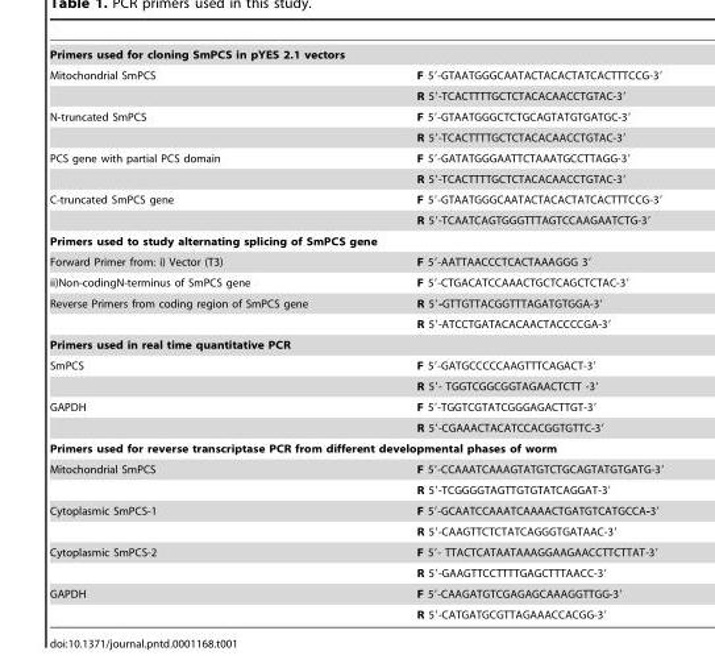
<table><tbody><tr><td colspan="2">Primers used for cloning SmPCS in pYES 2.1 vectors</td></tr><tr><td rowspan="2">Mitochondrial SmPCS</td><td>F 5′-GTAATGGGCAATACTACACTATCACTTTCCG-3′</td></tr><tr><td>R 5′-TCACTTTTGCTCTACACAACCTGTAC-3′</td></tr><tr><td rowspan="2">N-truncated SmPCS</td><td>F 5′-GTAATGGGCTCTGCAGTATGTGATGC-3′</td></tr><tr><td>R 5′-TCACTTTTGCTCTACACAACCTGTAC-3′</td></tr><tr><td rowspan="2">PCS gene with partial PCS domain</td><td>F 5′-GATATGGGAATTCTAAATGCCTTAGG-3′</td></tr><tr><td>R 5′-TCACTTTTGCTCTACACAACCTGTAC-3′</td></tr><tr><td rowspan="2">C-truncated SmPCS gene</td><td>F 5′-GTAATGGGCAATACTACACTATCACTTTCCG-3′</td></tr><tr><td>R 5′-TCAATCAGTGGGTTTAGTCCAAGAATCTG-3′</td></tr><tr><td colspan="2">Primers used to study alternating splicing of SmPCS gene</td></tr><tr><td>Forward Primer from: i) Vector (T3)</td><td>F 5′-AATTAACCCTCACTAAAGGG 3′</td></tr><tr><td>ii)Non-codingN-terminus of SmPCS gene</td><td>F 5′-CTGACATCCAAACTGCTCAGCTCTAC-3′</td></tr><tr><td rowspan="2">Reverse Primers from coding region of SmPCS gene</td><td>R 5′-GTTGTTACGGTTTAGATGTGGA-3′</td></tr><tr><td>R 5′-ATCCTGATACACAACTACCCCGA-3′</td></tr><tr><td colspan="2">Primers used in real time quantitative PCR</td></tr><tr><td rowspan="2">SmPCS</td><td>F 5′-GATGCCCCCAAGTTTCAGACT-3′</td></tr><tr><td>R 5′- TGGTCGGCGGTAGAACTCTT -3′</td></tr><tr><td rowspan="2">GAPDH</td><td>F 5′-TGGTCGTATCGGGAGACTTGT-3′</td></tr><tr><td>R 5′-CGAAACTACATCCACGGTGTTC-3′</td></tr><tr><td colspan="2">Primers used for reverse transcriptase PCR from different developmental phases of worm</td></tr><tr><td rowspan="2">Mitochondrial SmPCS</td><td>F 5′-CCAAATCAAAGTATGTCTGCAGTATGTGATG-3′</td></tr><tr><td>R 5′-TCGGGGTAGTTGTGTATCAGGAT-3′</td></tr><tr><td rowspan="2">Cytoplasmic SmPCS-1</td><td>F 5′-GCAATCCAAATCAAAACTGATGTCATGCCA-3′</td></tr><tr><td>R 5′-CAAGTTCTCTATCAGGGTGATAAC-3′</td></tr><tr><td rowspan="2">Cytoplasmic SmPCS-2</td><td>F 5′- TTACTCATAATAAAGGAAGAACCTTCTTAT-3′</td></tr><tr><td>R 5′-GAAGTTCCTTTTGAGCTTTAACC-3′</td></tr><tr><td rowspan="2">GAPDH</td><td>F 5′-CAAGATGTCGAGAGCAAAGGTTGG-3′</td></tr><tr><td>R 5′-CATGATGCGTTAGAAACCACGG-3′</td></tr></tbody></table>